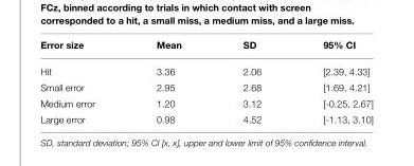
<table><thead><tr><td>Error size</td><td>Mean</td><td>SD</td><td>95% CI</td></tr></thead><tbody><tr><td>Hit</td><td>3.36</td><td>2.06</td><td>[2.39, 4.33]</td></tr><tr><td>Small error</td><td>2.95</td><td>2.68</td><td>[1.69, 4.21]</td></tr><tr><td>Medium error</td><td>1.20</td><td>3.12</td><td>[-0.25, 2.67]</td></tr><tr><td>Large error</td><td>0.98</td><td>4.52</td><td>[-1.13, 3.10]</td></tr></tbody></table>